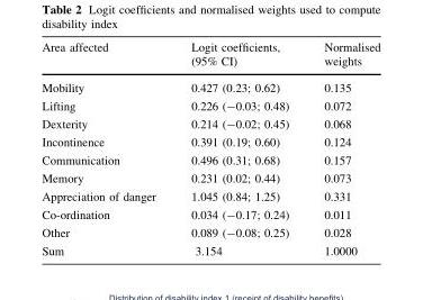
<table><thead><tr><td>Area affected</td><td>Logit coefficients, (95% CI)</td><td>Normalised weights</td></tr></thead><tbody><tr><td>Mobility</td><td>0.427 (0.23; 0.62)</td><td>0.135</td></tr><tr><td>Lifting</td><td>0.226 (-0.03; 0.48)</td><td>0.072</td></tr><tr><td>Dexterity</td><td>0.214 (-0.02; 0.45)</td><td>0.068</td></tr><tr><td>Incontinence</td><td>0.391 (0.19; 0.60)</td><td>0.124</td></tr><tr><td>Communication</td><td>0.496 (0.31; 0.68)</td><td>0.157</td></tr><tr><td>Memory</td><td>0.231 (0.02; 0.44)</td><td>0.073</td></tr><tr><td>Appreciation of danger</td><td>1.045 (0.84; 1.25)</td><td>0.331</td></tr><tr><td>Co-ordination</td><td>0.034 (-0.17; 0.24)</td><td>0.011</td></tr><tr><td>Other</td><td>0.089 (-0.08; 0.25)</td><td>0.028</td></tr><tr><td>Sum</td><td>3.154</td><td>1.0000</td></tr></tbody></table>